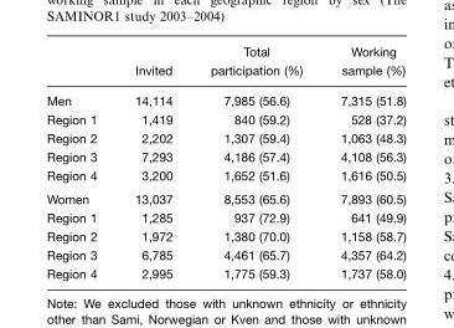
<table><thead><tr><td></td><td>Invited</td><td>Total participation (%)</td><td>Working sample (%)</td></tr></thead><tbody><tr><td>Men</td><td>14,114</td><td>7,985 (56.6)</td><td>7,315 (51.8)</td></tr><tr><td>Region 1</td><td>1,419</td><td>840 (59.2)</td><td>528 (37.2)</td></tr><tr><td>Region 2</td><td>2,202</td><td>1,307 (59.4)</td><td>1,063 (48.3)</td></tr><tr><td>Region 3</td><td>7,293</td><td>4,186 (57.4)</td><td>4,108 (56.3)</td></tr><tr><td>Region 4</td><td>3,200</td><td>1,652 (51.6)</td><td>1,616 (50.5)</td></tr><tr><td>Women</td><td>13,037</td><td>8,553 (65.6)</td><td>7,893 (60.5)</td></tr><tr><td>Region 1</td><td>1,285</td><td>937 (72.9)</td><td>641 (49.9)</td></tr><tr><td>Region 2</td><td>1,972</td><td>1,380 (70.0)</td><td>1,158 (58.7)</td></tr><tr><td>Region 3</td><td>6,785</td><td>4,461 (65.7)</td><td>4,357 (64.2)</td></tr><tr><td>Region 4</td><td>2,995</td><td>1,775 (59.3)</td><td>1,737 (58.0)</td></tr></tbody></table>